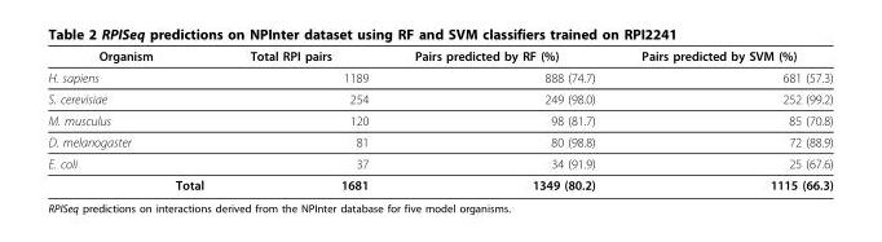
<table><thead><tr><td>Organism</td><td>Total RPI pairs</td><td>Pairs predicted by RF (%)</td><td>Pairs predicted by SVM (%)</td></tr></thead><tbody><tr><td>H. sapiens</td><td>1189</td><td>888 (74.7)</td><td>681 (57.3)</td></tr><tr><td>S. cerevisiae</td><td>254</td><td>249 (98.0)</td><td>252 (99.2)</td></tr><tr><td>M. musculus</td><td>120</td><td>98 (81.7)</td><td>85 (70.8)</td></tr><tr><td>D. melanogaster</td><td>81</td><td>80 (98.8)</td><td>72 (88.9)</td></tr><tr><td>E. coli</td><td>37</td><td>34 (91.9)</td><td>25 (67.6)</td></tr><tr><td>Total</td><td>1681</td><td>1349 (80.2)</td><td>1115 (66.3)</td></tr></tbody></table>